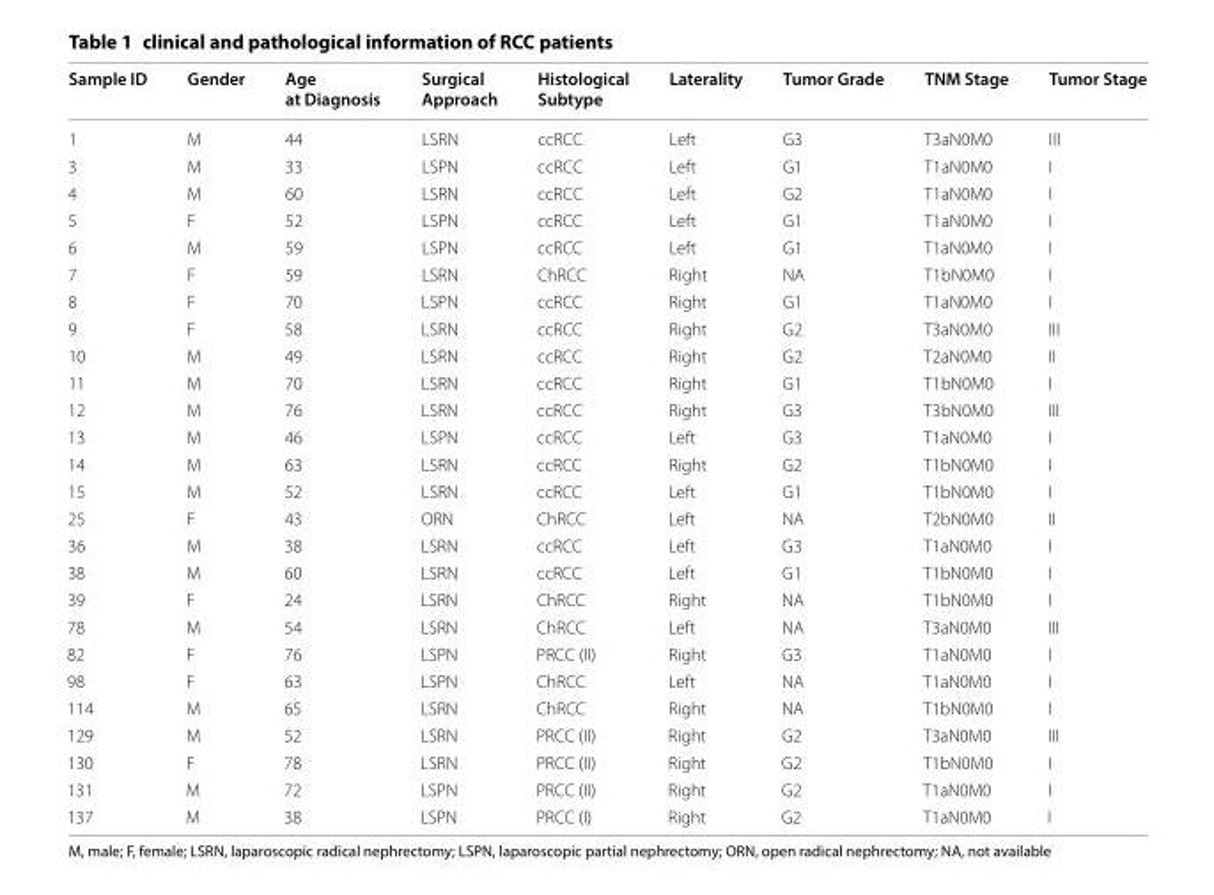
<table><thead><tr><td>Sample ID</td><td>Gender</td><td>Age at Diagnosis</td><td>Surgical Approach</td><td>Histological Subtype</td><td>Laterality</td><td>Tumor Grade</td><td>TNM Stage</td><td>Tumor Stage</td></tr></thead><tbody><tr><td>1</td><td>M</td><td>44</td><td>LSRN</td><td>ccRCC</td><td>Left</td><td>G3</td><td>T3aN0M0</td><td>III</td></tr><tr><td>3</td><td>M</td><td>33</td><td>LSPN</td><td>ccRCC</td><td>Left</td><td>G1</td><td>T1aN0M0</td><td>I</td></tr><tr><td>4</td><td>M</td><td>60</td><td>LSRN</td><td>ccRCC</td><td>Left</td><td>G2</td><td>T1aN0M0</td><td>I</td></tr><tr><td>5</td><td>F</td><td>52</td><td>LSPN</td><td>ccRCC</td><td>Left</td><td>G1</td><td>T1aN0M0</td><td>I</td></tr><tr><td>6</td><td>M</td><td>59</td><td>LSPN</td><td>ccRCC</td><td>Left</td><td>G1</td><td>T1aN0M0</td><td>I</td></tr><tr><td>7</td><td>F</td><td>59</td><td>LSRN</td><td>ChRCC</td><td>Right</td><td>NA</td><td>T1bN0M0</td><td>I</td></tr><tr><td>8</td><td>F</td><td>70</td><td>LSPN</td><td>ccRCC</td><td>Right</td><td>G1</td><td>T1aN0M0</td><td>I</td></tr><tr><td>9</td><td>F</td><td>58</td><td>LSRN</td><td>ccRCC</td><td>Right</td><td>G2</td><td>T3aN0M0</td><td>III</td></tr><tr><td>10</td><td>M</td><td>49</td><td>LSRN</td><td>ccRCC</td><td>Right</td><td>G2</td><td>T2aN0M0</td><td>II</td></tr><tr><td>11</td><td>M</td><td>70</td><td>LSRN</td><td>ccRCC</td><td>Right</td><td>G1</td><td>T1bN0M0</td><td>I</td></tr><tr><td>12</td><td>M</td><td>76</td><td>LSRN</td><td>ccRCC</td><td>Right</td><td>G3</td><td>T3bN0M0</td><td>III</td></tr><tr><td>13</td><td>M</td><td>46</td><td>LSPN</td><td>ccRCC</td><td>Left</td><td>G3</td><td>T1aN0M0</td><td>I</td></tr><tr><td>14</td><td>M</td><td>63</td><td>LSRN</td><td>ccRCC</td><td>Right</td><td>G2</td><td>T1bN0M0</td><td>I</td></tr><tr><td>15</td><td>M</td><td>52</td><td>LSRN</td><td>ccRCC</td><td>Left</td><td>G1</td><td>T1bN0M0</td><td>I</td></tr><tr><td>25</td><td>F</td><td>43</td><td>ORN</td><td>ChRCC</td><td>Left</td><td>NA</td><td>T2bN0M0</td><td>II</td></tr><tr><td>36</td><td>M</td><td>38</td><td>LSRN</td><td>ccRCC</td><td>Left</td><td>G3</td><td>T1aN0M0</td><td>I</td></tr><tr><td>38</td><td>M</td><td>60</td><td>LSRN</td><td>ccRCC</td><td>Left</td><td>G1</td><td>T1bN0M0</td><td>I</td></tr><tr><td>39</td><td>F</td><td>24</td><td>LSRN</td><td>ChRCC</td><td>Right</td><td>NA</td><td>T1bN0M0</td><td>I</td></tr><tr><td>78</td><td>M</td><td>54</td><td>LSRN</td><td>ChRCC</td><td>Left</td><td>NA</td><td>T3aN0M0</td><td>III</td></tr><tr><td>82</td><td>F</td><td>76</td><td>LSPN</td><td>PRCC (II)</td><td>Right</td><td>G3</td><td>T1aN0M0</td><td>I</td></tr><tr><td>98</td><td>F</td><td>63</td><td>LSPN</td><td>ChRCC</td><td>Left</td><td>NA</td><td>T1aN0M0</td><td>I</td></tr><tr><td>114</td><td>M</td><td>65</td><td>LSRN</td><td>ChRCC</td><td>Right</td><td>NA</td><td>T1bN0M0</td><td>I</td></tr><tr><td>129</td><td>M</td><td>52</td><td>LSRN</td><td>PRCC (II)</td><td>Right</td><td>G2</td><td>T3aN0M0</td><td>III</td></tr><tr><td>130</td><td>F</td><td>78</td><td>LSRN</td><td>PRCC (II)</td><td>Right</td><td>G2</td><td>T1bN0M0</td><td>I</td></tr><tr><td>131</td><td>M</td><td>72</td><td>LSPN</td><td>PRCC (II)</td><td>Right</td><td>G2</td><td>T1aN0M0</td><td>I</td></tr><tr><td>137</td><td>M</td><td>38</td><td>LSPN</td><td>PRCC (I)</td><td>Right</td><td>G2</td><td>T1aN0M0</td><td>I</td></tr></tbody></table>